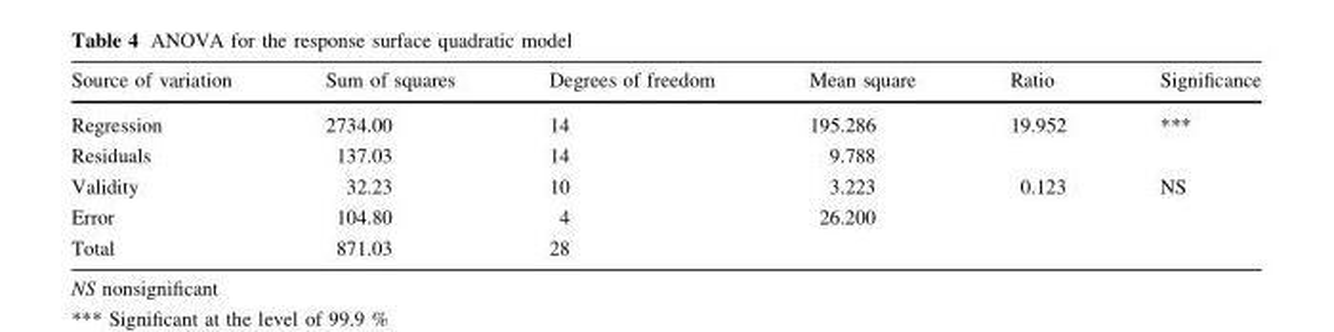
<table><thead><tr><td>Source of variation</td><td>Sum of squares</td><td>Degrees of freedom</td><td>Mean square</td><td>Ratio</td><td>Significance</td></tr></thead><tbody><tr><td>Regression</td><td>2734.00</td><td>14</td><td>195.286</td><td>19.952</td><td>***</td></tr><tr><td>Residuals</td><td>137.03</td><td>14</td><td>9.788</td><td></td><td></td></tr><tr><td>Validity</td><td>32.23</td><td>10</td><td>3.223</td><td>0.123</td><td>NS</td></tr><tr><td>Error</td><td>104.80</td><td>4</td><td>26.200</td><td></td><td></td></tr><tr><td>Total</td><td>871.03</td><td>28</td><td></td><td></td><td></td></tr></tbody></table>